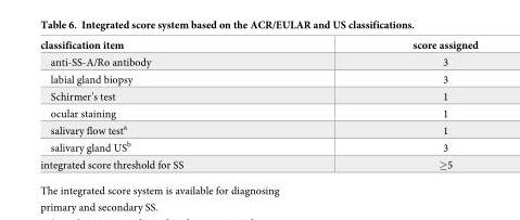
<table><thead><tr><td>classification item</td><td>score assigned</td></tr></thead><tbody><tr><td>anti-SS-A/Ro antibody</td><td>3</td></tr><tr><td>labial gland biopsy</td><td>3</td></tr><tr><td>Schirmer’s test</td><td>1</td></tr><tr><td>ocular staining</td><td>1</td></tr><tr><td>salivary flow test<sup>a</sup></td><td>1</td></tr><tr><td>salivary gland US<sup>b</sup></td><td>3</td></tr><tr><td>integrated score threshold for SS</td><td>≥5</td></tr></tbody></table>